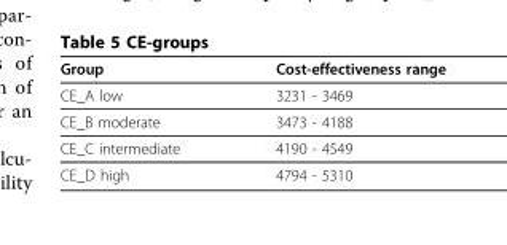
<table><thead><tr><td>Group</td><td>Cost-effectiveness range</td></tr></thead><tbody><tr><td>CE_A low</td><td>3231 - 3469</td></tr><tr><td>CE_B moderate</td><td>3473 - 4188</td></tr><tr><td>CE_C intermediate</td><td>4190 - 4549</td></tr><tr><td>CE_D high</td><td>4794 - 5310</td></tr></tbody></table>